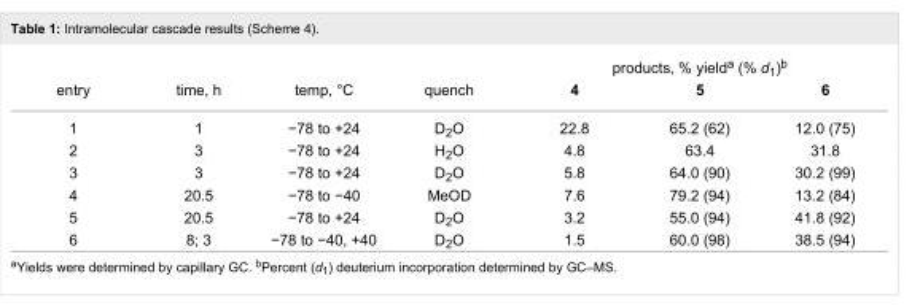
<table><thead><tr><td rowspan="2">entry</td><td rowspan="2">time, h</td><td rowspan="2">temp, °C</td><td rowspan="2">quench</td><td colspan="3">products, % yield<sup>a</sup> (% d<sub>1</sub>)<sup>b</sup></td></tr><tr><td>4</td><td>5</td><td>6</td></tr></thead><tbody><tr><td>1</td><td>1</td><td>−78 to +24</td><td>D<sub>2</sub>O</td><td>22.8</td><td>65.2 (62)</td><td>12.0 (75)</td></tr><tr><td>2</td><td>3</td><td>−78 to +24</td><td>H<sub>2</sub>O</td><td>4.8</td><td>63.4</td><td>31.8</td></tr><tr><td>3</td><td>3</td><td>−78 to +24</td><td>D<sub>2</sub>O</td><td>5.8</td><td>64.0 (90)</td><td>30.2 (99)</td></tr><tr><td>4</td><td>20.5</td><td>−78 to −40</td><td>MeOD</td><td>7.6</td><td>79.2 (94)</td><td>13.2 (84)</td></tr><tr><td>5</td><td>20.5</td><td>−78 to +24</td><td>D<sub>2</sub>O</td><td>3.2</td><td>55.0 (94)</td><td>41.8 (92)</td></tr><tr><td>6</td><td>8; 3</td><td>−78 to −40, +40</td><td>D<sub>2</sub>O</td><td>1.5</td><td>60.0 (98)</td><td>38.5 (94)</td></tr></tbody></table>